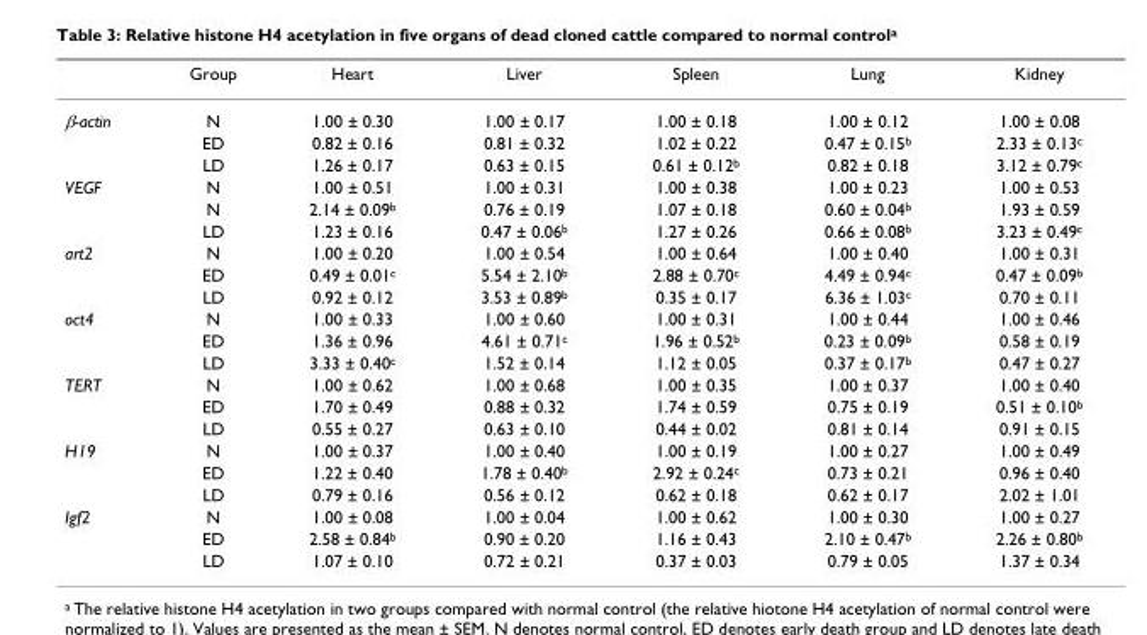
<table><thead><tr><td></td><td>Group</td><td>Heart</td><td>Liver</td><td>Spleen</td><td>Lung</td><td>Kidney</td></tr></thead><tbody><tr><td rowspan="3">β-actin</td><td>N</td><td>1.00 ± 0.30</td><td>1.00 ± 0.17</td><td>1.00 ± 0.18</td><td>1.00 ± 0.12</td><td>1.00 ± 0.08</td></tr><tr><td>ED</td><td>0.82 ± 0.16</td><td>0.81 ± 0.32</td><td>1.02 ± 0.22</td><td>0.47 ± 0.15<sup>b</sup></td><td>2.33 ± 0.13<sup>c</sup></td></tr><tr><td>LD</td><td>1.26 ± 0.17</td><td>0.63 ± 0.15</td><td>0.61 ± 0.12<sup>b</sup></td><td>0.82 ± 0.18</td><td>3.12 ± 0.79<sup>c</sup></td></tr><tr><td rowspan="3">VEGF</td><td>N</td><td>1.00 ± 0.51</td><td>1.00 ± 0.31</td><td>1.00 ± 0.38</td><td>1.00 ± 0.23</td><td>1.00 ± 0.53</td></tr><tr><td>N</td><td>2.14 ± 0.09<sup>b</sup></td><td>0.76 ± 0.19</td><td>1.07 ± 0.18</td><td>0.60 ± 0.04<sup>b</sup></td><td>1.93 ± 0.59</td></tr><tr><td>LD</td><td>1.23 ± 0.16</td><td>0.47 ± 0.06<sup>b</sup></td><td>1.27 ± 0.26</td><td>0.66 ± 0.08<sup>b</sup></td><td>3.23 ± 0.49<sup>c</sup></td></tr><tr><td rowspan="3">art2</td><td>N</td><td>1.00 ± 0.20</td><td>1.00 ± 0.54</td><td>1.00 ± 0.64</td><td>1.00 ± 0.40</td><td>1.00 ± 0.31</td></tr><tr><td>ED</td><td>0.49 ± 0.01<sup>c</sup></td><td>5.54 ± 2.10<sup>b</sup></td><td>2.88 ± 0.70<sup>c</sup></td><td>4.49 ± 0.94<sup>c</sup></td><td>0.47 ± 0.09<sup>b</sup></td></tr><tr><td>LD</td><td>0.92 ± 0.12</td><td>3.53 ± 0.89<sup>b</sup></td><td>0.35 ± 0.17</td><td>6.36 ± 1.03<sup>c</sup></td><td>0.70 ± 0.11</td></tr><tr><td rowspan="3">oct4</td><td>N</td><td>1.00 ± 0.33</td><td>1.00 ± 0.60</td><td>1.00 ± 0.31</td><td>1.00 ± 0.44</td><td>1.00 ± 0.46</td></tr><tr><td>ED</td><td>1.36 ± 0.96</td><td>4.61 ± 0.71<sup>c</sup></td><td>1.96 ± 0.52<sup>b</sup></td><td>0.23 ± 0.09<sup>b</sup></td><td>0.58 ± 0.19</td></tr><tr><td>LD</td><td>3.33 ± 0.40<sup>c</sup></td><td>1.52 ± 0.14</td><td>1.12 ± 0.05</td><td>0.37 ± 0.17<sup>b</sup></td><td>0.47 ± 0.27</td></tr><tr><td rowspan="3">TERT</td><td>N</td><td>1.00 ± 0.62</td><td>1.00 ± 0.68</td><td>1.00 ± 0.35</td><td>1.00 ± 0.37</td><td>1.00 ± 0.40</td></tr><tr><td>ED</td><td>1.70 ± 0.49</td><td>0.88 ± 0.32</td><td>1.74 ± 0.59</td><td>0.75 ± 0.19</td><td>0.51 ± 0.10<sup>b</sup></td></tr><tr><td>LD</td><td>0.55 ± 0.27</td><td>0.63 ± 0.10</td><td>0.44 ± 0.02</td><td>0.81 ± 0.14</td><td>0.91 ± 0.15</td></tr><tr><td rowspan="3">H19</td><td>N</td><td>1.00 ± 0.37</td><td>1.00 ± 0.40</td><td>1.00 ± 0.19</td><td>1.00 ± 0.27</td><td>1.00 ± 0.49</td></tr><tr><td>ED</td><td>1.22 ± 0.40</td><td>1.78 ± 0.40<sup>b</sup></td><td>2.92 ± 0.24<sup>c</sup></td><td>0.73 ± 0.21</td><td>0.96 ± 0.40</td></tr><tr><td>LD</td><td>0.79 ± 0.16</td><td>0.56 ± 0.12</td><td>0.62 ± 0.18</td><td>0.62 ± 0.17</td><td>2.02 ± 1.01</td></tr><tr><td rowspan="3">Igf2</td><td>N</td><td>1.00 ± 0.08</td><td>1.00 ± 0.04</td><td>1.00 ± 0.62</td><td>1.00 ± 0.30</td><td>1.00 ± 0.27</td></tr><tr><td>ED</td><td>2.58 ± 0.84<sup>b</sup></td><td>0.90 ± 0.20</td><td>1.16 ± 0.43</td><td>2.10 ± 0.47<sup>b</sup></td><td>2.26 ± 0.80<sup>b</sup></td></tr><tr><td>LD</td><td>1.07 ± 0.10</td><td>0.72 ± 0.21</td><td>0.37 ± 0.03</td><td>0.79 ± 0.05</td><td>1.37 ± 0.34</td></tr></tbody></table>